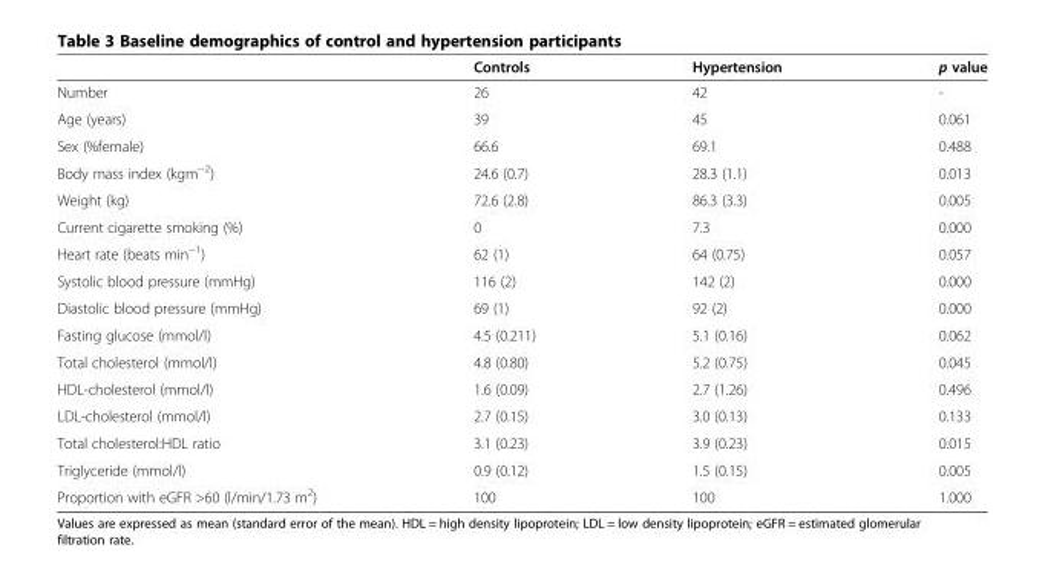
<table><thead><tr><td></td><td>Controls</td><td>Hypertension</td><td>p value</td></tr></thead><tbody><tr><td>Number</td><td>26</td><td>42</td><td>-</td></tr><tr><td>Age (years)</td><td>39</td><td>45</td><td>0.061</td></tr><tr><td>Sex (%female)</td><td>66.6</td><td>69.1</td><td>0.488</td></tr><tr><td>Body mass index (kgm<sup>−2</sup>)</td><td>24.6 (0.7)</td><td>28.3 (1.1)</td><td>0.013</td></tr><tr><td>Weight (kg)</td><td>72.6 (2.8)</td><td>86.3 (3.3)</td><td>0.005</td></tr><tr><td>Current cigarette smoking (%)</td><td>0</td><td>7.3</td><td>0.000</td></tr><tr><td>Heart rate (beats min<sup>−1</sup>)</td><td>62 (1)</td><td>64 (0.75)</td><td>0.057</td></tr><tr><td>Systolic blood pressure (mmHg)</td><td>116 (2)</td><td>142 (2)</td><td>0.000</td></tr><tr><td>Diastolic blood pressure (mmHg)</td><td>69 (1)</td><td>92 (2)</td><td>0.000</td></tr><tr><td>Fasting glucose (mmol/l)</td><td>4.5 (0.211)</td><td>5.1 (0.16)</td><td>0.062</td></tr><tr><td>Total cholesterol (mmol/l)</td><td>4.8 (0.80)</td><td>5.2 (0.75)</td><td>0.045</td></tr><tr><td>HDL-cholesterol (mmol/l)</td><td>1.6 (0.09)</td><td>2.7 (1.26)</td><td>0.496</td></tr><tr><td>LDL-cholesterol (mmol/l)</td><td>2.7 (0.15)</td><td>3.0 (0.13)</td><td>0.133</td></tr><tr><td>Total cholesterol:HDL ratio</td><td>3.1 (0.23)</td><td>3.9 (0.23)</td><td>0.015</td></tr><tr><td>Triglyceride (mmol/l)</td><td>0.9 (0.12)</td><td>1.5 (0.15)</td><td>0.005</td></tr><tr><td>Proportion with eGFR &gt;60 (l/min/1.73 m<sup>2</sup>)</td><td>100</td><td>100</td><td>1.000</td></tr></tbody></table>